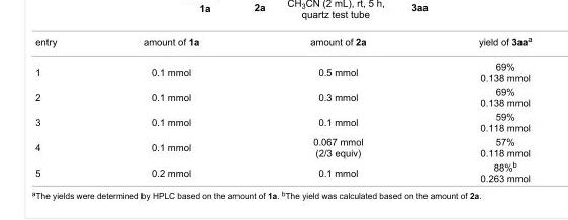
<table><tbody><tr><td>entry</td><td>amount of 1a</td><td>amount of 2a</td><td>yield of 3aa<sup>a</sup></td></tr><tr><td>1</td><td>0.1 mmol</td><td>0.5 mmol</td><td>69% 0.138 mmol</td></tr><tr><td>2</td><td>0.1 mmol</td><td>0.3 mmol</td><td>69% 0.138 mmol</td></tr><tr><td>3</td><td>0.1 mmol</td><td>0.1 mmol</td><td>59% 0.118 mmol</td></tr><tr><td>4</td><td>0.1 mmol</td><td>0.067 mmol (2/3 equiv)</td><td>57% 0.118 mmol</td></tr><tr><td>5</td><td>0.2 mmol</td><td>0.1 mmol</td><td>88%<sup>b</sup> 0.263 mmol</td></tr></tbody></table>